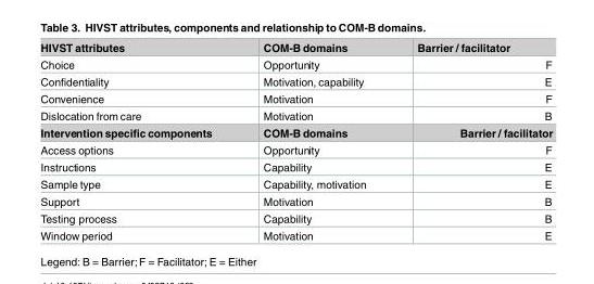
<table><tbody><tr><td>HIVST attributes</td><td>COM-B domains</td><td>Barrier / facilitator</td></tr><tr><td>Choice</td><td>Opportunity</td><td>F</td></tr><tr><td>Confidentiality</td><td>Motivation, capability</td><td>E</td></tr><tr><td>Convenience</td><td>Motivation</td><td>F</td></tr><tr><td>Dislocation from care</td><td>Motivation</td><td>B</td></tr><tr><td>Intervention specific components</td><td>COM-B domains</td><td>Barrier / facilitator</td></tr><tr><td>Access options</td><td>Opportunity</td><td>F</td></tr><tr><td>Instructions</td><td>Capability</td><td>E</td></tr><tr><td>Sample type</td><td>Capability, motivation</td><td>E</td></tr><tr><td>Support</td><td>Motivation</td><td>B</td></tr><tr><td>Testing process</td><td>Capability</td><td>B</td></tr><tr><td>Window period</td><td>Motivation</td><td>E</td></tr></tbody></table>